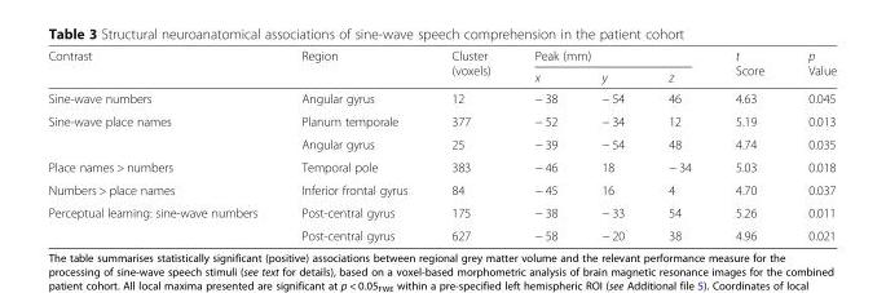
<table><thead><tr><td rowspan="2">Contrast</td><td rowspan="2">Region</td><td rowspan="2">Cluster (voxels)</td><td colspan="3">Peak (mm)</td><td rowspan="2">t Score</td><td rowspan="2">p Value</td></tr><tr><td>x</td><td>y</td><td>z</td></tr></thead><tbody><tr><td>Sine-wave numbers</td><td>Angular gyrus</td><td>12</td><td>− 38</td><td>− 54</td><td>46</td><td>4.63</td><td>0.045</td></tr><tr><td rowspan="2">Sine-wave place names</td><td>Planum temporale</td><td>377</td><td>− 52</td><td>− 34</td><td>12</td><td>5.19</td><td>0.013</td></tr><tr><td>Angular gyrus</td><td>25</td><td>− 39</td><td>− 54</td><td>48</td><td>4.74</td><td>0.035</td></tr><tr><td>Place names &gt; numbers</td><td>Temporal pole</td><td>383</td><td>− 46</td><td>18</td><td>− 34</td><td>5.03</td><td>0.018</td></tr><tr><td>Numbers &gt; place names</td><td>Inferior frontal gyrus</td><td>84</td><td>− 45</td><td>16</td><td>4</td><td>4.70</td><td>0.037</td></tr><tr><td rowspan="2">Perceptual learning: sine-wave numbers</td><td>Post-central gyrus</td><td>175</td><td>− 38</td><td>− 33</td><td>54</td><td>5.26</td><td>0.011</td></tr><tr><td>Post-central gyrus</td><td>627</td><td>− 58</td><td>− 20</td><td>38</td><td>4.96</td><td>0.021</td></tr></tbody></table>